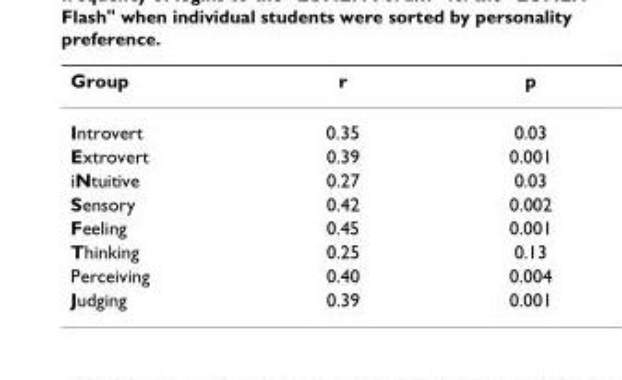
<table><thead><tr><td>Group</td><td>r</td><td>p</td></tr></thead><tbody><tr><td>Introvert</td><td>0.35</td><td>0.03</td></tr><tr><td>Extrovert</td><td>0.39</td><td>0.001</td></tr><tr><td>iNtuitive</td><td>0.27</td><td>0.03</td></tr><tr><td>Sensory</td><td>0.42</td><td>0.002</td></tr><tr><td>Feeling</td><td>0.45</td><td>0.001</td></tr><tr><td>Thinking</td><td>0.25</td><td>0.13</td></tr><tr><td>Perceiving</td><td>0.40</td><td>0.004</td></tr><tr><td>Judging</td><td>0.39</td><td>0.001</td></tr></tbody></table>